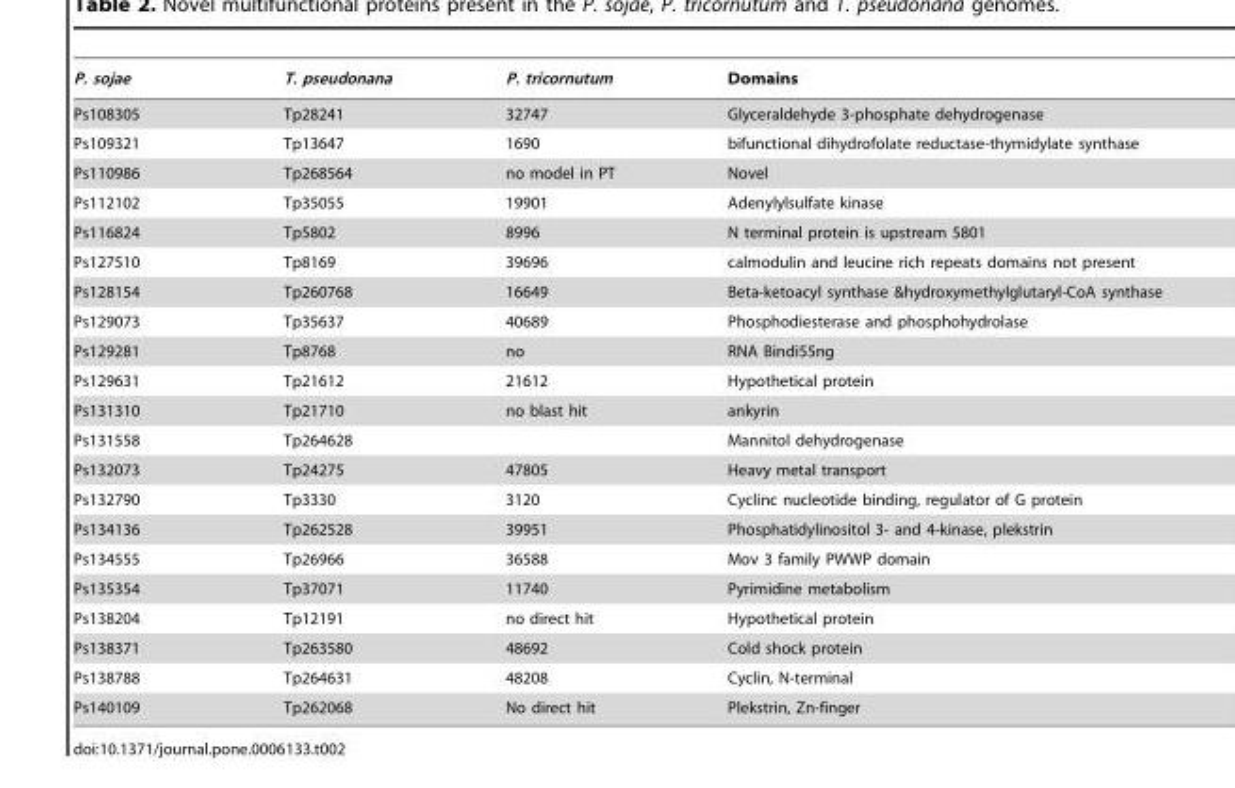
<table><thead><tr><td>P. sojae</td><td>T. pseudonana</td><td>P. tricornutum</td><td>Domains</td></tr></thead><tbody><tr><td>Ps108305</td><td>Tp28241</td><td>32747</td><td>Glyceraldehyde 3-phosphate dehydrogenase</td></tr><tr><td>Ps109321</td><td>Tp13647</td><td>1690</td><td>bifunctional dihydrofolate reductase-thymidylate synthase</td></tr><tr><td>Ps110986</td><td>Tp268564</td><td>no model in PT</td><td>Novel</td></tr><tr><td>Ps112102</td><td>Tp35055</td><td>19901</td><td>Adenylylsulfate kinase</td></tr><tr><td>Ps116824</td><td>Tp5802</td><td>8996</td><td>N terminal protein is upstream 5801</td></tr><tr><td>Ps127510</td><td>Tp8169</td><td>39696</td><td>calmodulin and leucine rich repeats domains not present</td></tr><tr><td>Ps128154</td><td>Tp260768</td><td>16649</td><td>Beta-ketoacyl synthase &amp;hydroxymethylglutaryl-CoA synthase</td></tr><tr><td>Ps129073</td><td>Tp35637</td><td>40689</td><td>Phosphodiesterase and phosphohydrolase</td></tr><tr><td>Ps129281</td><td>Tp8768</td><td>no</td><td>RNA Bindi55ng</td></tr><tr><td>Ps129631</td><td>Tp21612</td><td>21612</td><td>Hypothetical protein</td></tr><tr><td>Ps131310</td><td>Tp21710</td><td>no blast hit</td><td>ankyrin</td></tr><tr><td>Ps131558</td><td>Tp264628</td><td></td><td>Mannitol dehydrogenase</td></tr><tr><td>Ps132073</td><td>Tp24275</td><td>47805</td><td>Heavy metal transport</td></tr><tr><td>Ps132790</td><td>Tp3330</td><td>3120</td><td>Cyclinc nucleotide binding, regulator of G protein</td></tr><tr><td>Ps134136</td><td>Tp262528</td><td>39951</td><td>Phosphatidylinositol 3- and 4-kinase, plekstrin</td></tr><tr><td>Ps134555</td><td>Tp26966</td><td>36588</td><td>Mov 3 family PWWP domain</td></tr><tr><td>Ps135354</td><td>Tp37071</td><td>11740</td><td>Pyrimidine metabolism</td></tr><tr><td>Ps138204</td><td>Tp12191</td><td>no direct hit</td><td>Hypothetical protein</td></tr><tr><td>Ps138371</td><td>Tp263580</td><td>48692</td><td>Cold shock protein</td></tr><tr><td>Ps138788</td><td>Tp264631</td><td>48208</td><td>Cyclin, N-terminal</td></tr><tr><td>Ps140109</td><td>Tp262068</td><td>No direct hit</td><td>Plekstrin, Zn-finger</td></tr></tbody></table>